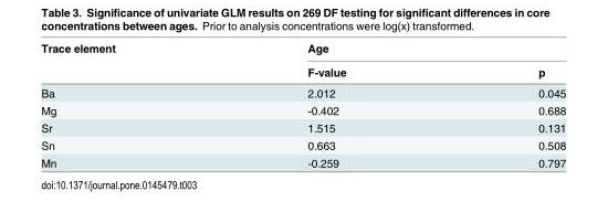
<table><thead><tr><td rowspan="2">Trace element</td><td colspan="2">Age</td></tr><tr><td>F-value</td><td>p</td></tr></thead><tbody><tr><td>Ba</td><td>2.012</td><td>0.045</td></tr><tr><td>Mg</td><td>-0.402</td><td>0.688</td></tr><tr><td>Sr</td><td>1.515</td><td>0.131</td></tr><tr><td>Sn</td><td>0.663</td><td>0.508</td></tr><tr><td>Mn</td><td>-0.259</td><td>0.797</td></tr></tbody></table>